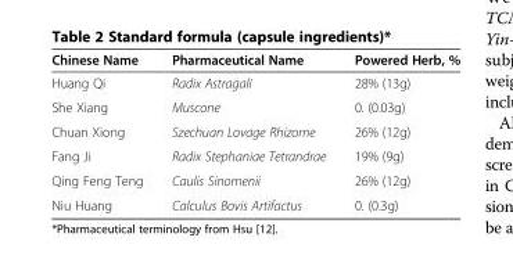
<table><thead><tr><td>Chinese Name</td><td>Pharmaceutical Name</td><td>Powered Herb, %</td></tr></thead><tbody><tr><td>Huang Qi</td><td>Radix Astragali</td><td>28% (13g)</td></tr><tr><td>She Xiang</td><td>Muscone</td><td>0. (0.03g)</td></tr><tr><td>Chuan Xiong</td><td>Szechuan Lovage Rhizome</td><td>26% (12g)</td></tr><tr><td>Fang Ji</td><td>Radix Stephaniae Tetrandrae</td><td>19% (9g)</td></tr><tr><td>Qing Feng Teng</td><td>Caulis Sinomenii</td><td>26% (12g)</td></tr><tr><td>Niu Huang</td><td>Calculus Bovis Artifactus</td><td>0. (0.3g)</td></tr></tbody></table>